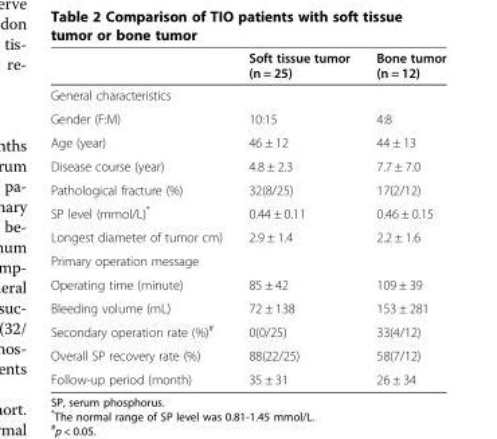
<table><thead><tr><td></td><td>Soft tissue tumor (n = 25)</td><td>Bone tumor (n = 12)</td></tr></thead><tbody><tr><td colspan="3">General characteristics</td></tr><tr><td>Gender (F:M)</td><td>10:15</td><td>4:8</td></tr><tr><td>Age (year)</td><td>46 ± 12</td><td>44 ± 13</td></tr><tr><td>Disease course (year)</td><td>4.8 ± 2.3</td><td>7.7 ± 7.0</td></tr><tr><td>Pathological fracture (%)</td><td>32(8/25)</td><td>17(2/12)</td></tr><tr><td>SP level (mmol/L)*</td><td>0.44 ± 0.11</td><td>0.46 ± 0.15</td></tr><tr><td>Longest diameter of tumor cm)</td><td>2.9 ± 1.4</td><td>2.2 ± 1.6</td></tr><tr><td colspan="3">Primary operation message</td></tr><tr><td>Operating time (minute)</td><td>85 ± 42</td><td>109 ± 39</td></tr><tr><td>Bleeding volume (mL)</td><td>72 ± 138</td><td>153 ± 281</td></tr><tr><td>Secondary operation rate (%)<sup>#</sup></td><td>0(0/25)</td><td>33(4/12)</td></tr><tr><td>Overall SP recovery rate (%)</td><td>88(22/25)</td><td>58(7/12)</td></tr><tr><td>Follow-up period (month)</td><td>35 ± 31</td><td>26 ± 34</td></tr></tbody></table>